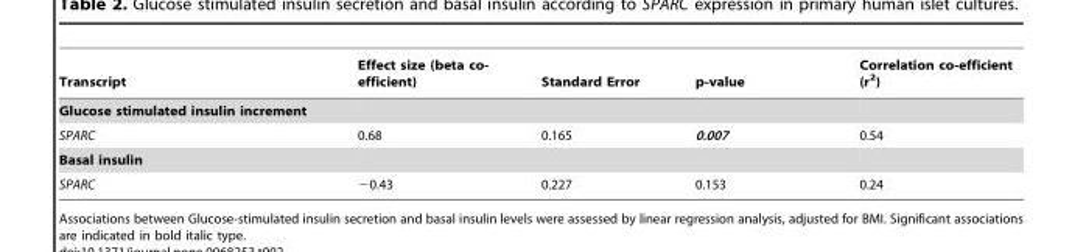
<table><thead><tr><td>Transcript</td><td>Effect size (beta co- efficient)</td><td>Standard Error</td><td>p-value</td><td>Correlation co-efficient (r<sup>2</sup>)</td></tr></thead><tbody><tr><td colspan="5">Glucose stimulated insulin increment</td></tr><tr><td>SPARC</td><td>0.68</td><td>0.165</td><td>0.007</td><td>0.54</td></tr><tr><td colspan="5">Basal insulin</td></tr><tr><td>SPARC</td><td>−0.43</td><td>0.227</td><td>0.153</td><td>0.24</td></tr></tbody></table>